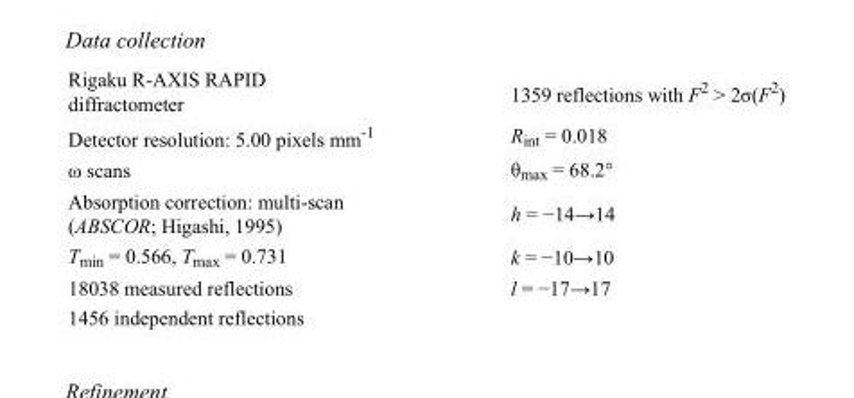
<table><tbody><tr><td>Rigaku R-AXIS RAPID diffractometer</td><td>1359 reflections with F<sup>2</sup> &gt; 2σ(F<sup>2</sup>)</td></tr><tr><td>Detector resolution: 5.00 pixels mm<sup>-1</sup></td><td>R<sub>int</sub> = 0.018</td></tr><tr><td>ω scans</td><td>θ<sub>max</sub> = 68.2°</td></tr><tr><td>Absorption correction: multi-scan (ABSCOR; Higashi, 1995)</td><td>h = −14→14</td></tr><tr><td>T<sub>min</sub> = 0.566, T<sub>max</sub> = 0.731</td><td>k = −10→10</td></tr><tr><td>18038 measured reflections</td><td>l = −17→17</td></tr><tr><td>1456 independent reflections</td><td></td></tr></tbody></table>